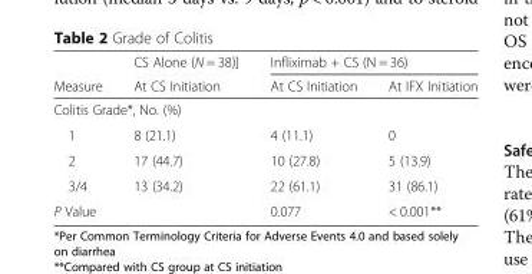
<table><thead><tr><td rowspan="2">Measure</td><td rowspan="2">CS Alone (N = 38)] At CS Initiation</td><td colspan="2">Infliximab + CS (N = 36)</td></tr><tr><td>At CS Initiation</td><td>At IFX Initiation</td></tr></thead><tbody><tr><td colspan="4">Colitis Grade*, No. (%)</td></tr><tr><td>1</td><td>8 (21.1)</td><td>4 (11.1)</td><td>0</td></tr><tr><td>2</td><td>17 (44.7)</td><td>10 (27.8)</td><td>5 (13.9)</td></tr><tr><td>3/4</td><td>13 (34.2)</td><td>22 (61.1)</td><td>31 (86.1)</td></tr><tr><td>P Value</td><td></td><td>0.077</td><td>&lt; 0.001**</td></tr></tbody></table>